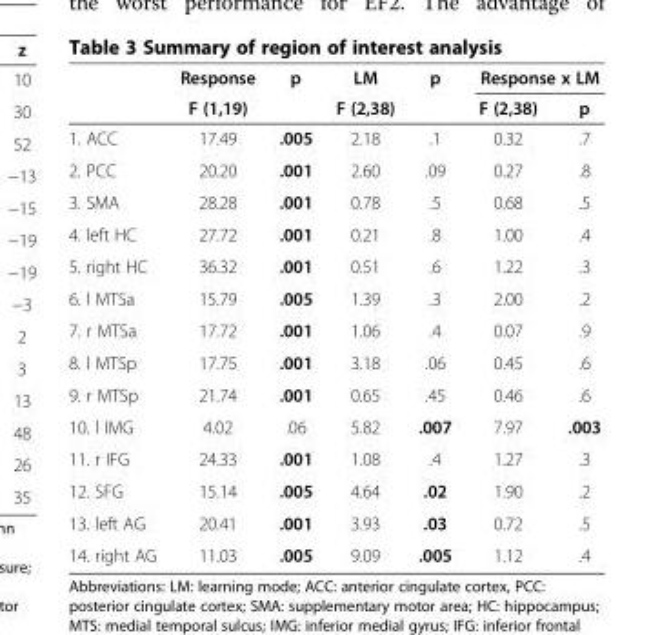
<table><thead><tr><td rowspan="2"></td><td rowspan="2">Response F (1,19)</td><td rowspan="2">p</td><td rowspan="2">LM F (2,38)</td><td rowspan="2">p</td><td colspan="2">Response x LM</td></tr><tr><td>F (2,38)</td><td>p</td></tr></thead><tbody><tr><td>1. ACC</td><td>17.49</td><td>.005</td><td>2.18</td><td>.1</td><td>0.32</td><td>.7</td></tr><tr><td>2. PCC</td><td>20.20</td><td>.001</td><td>2.60</td><td>.09</td><td>0.27</td><td>.8</td></tr><tr><td>3. SMA</td><td>28.28</td><td>.001</td><td>0.78</td><td>.5</td><td>0.68</td><td>.5</td></tr><tr><td>4. left HC</td><td>27.72</td><td>.001</td><td>0.21</td><td>.8</td><td>1.00</td><td>.4</td></tr><tr><td>5. right HC</td><td>36.32</td><td>.001</td><td>0.51</td><td>.6</td><td>1.22</td><td>.3</td></tr><tr><td>6. l MTSa</td><td>15.79</td><td>.005</td><td>1.39</td><td>.3</td><td>2.00</td><td>.2</td></tr><tr><td>7. r MTSa</td><td>17.72</td><td>.001</td><td>1.06</td><td>.4</td><td>0.07</td><td>.9</td></tr><tr><td>8. l MTSp</td><td>17.75</td><td>.001</td><td>3.18</td><td>.06</td><td>0.45</td><td>.6</td></tr><tr><td>9. r MTSp</td><td>21.74</td><td>.001</td><td>0.65</td><td>.45</td><td>0.46</td><td>.6</td></tr><tr><td>10. l IMG</td><td>4.02</td><td>.06</td><td>5.82</td><td>.007</td><td>7.97</td><td>.003</td></tr><tr><td>11. r IFG</td><td>24.33</td><td>.001</td><td>1.08</td><td>.4</td><td>1.27</td><td>.3</td></tr><tr><td>12. SFG</td><td>15.14</td><td>.005</td><td>4.64</td><td>.02</td><td>1.90</td><td>.2</td></tr><tr><td>13. left AG</td><td>20.41</td><td>.001</td><td>3.93</td><td>.03</td><td>0.72</td><td>.5</td></tr><tr><td>14. right AG</td><td>11.03</td><td>.005</td><td>9.09</td><td>.005</td><td>1.12</td><td>.4</td></tr></tbody></table>